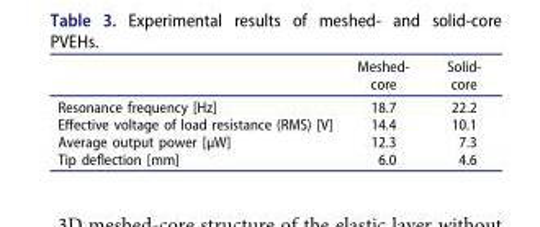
<table><thead><tr><td></td><td>Meshed- core</td><td>Solid- core</td></tr></thead><tbody><tr><td>Resonance frequency [Hz]</td><td>18.7</td><td>22.2</td></tr><tr><td>Effective voltage of load resistance (RMS) [V]</td><td>14.4</td><td>10.1</td></tr><tr><td>Average output power [μW]</td><td>12.3</td><td>7.3</td></tr><tr><td>Tip deflection [mm]</td><td>6.0</td><td>4.6</td></tr></tbody></table>